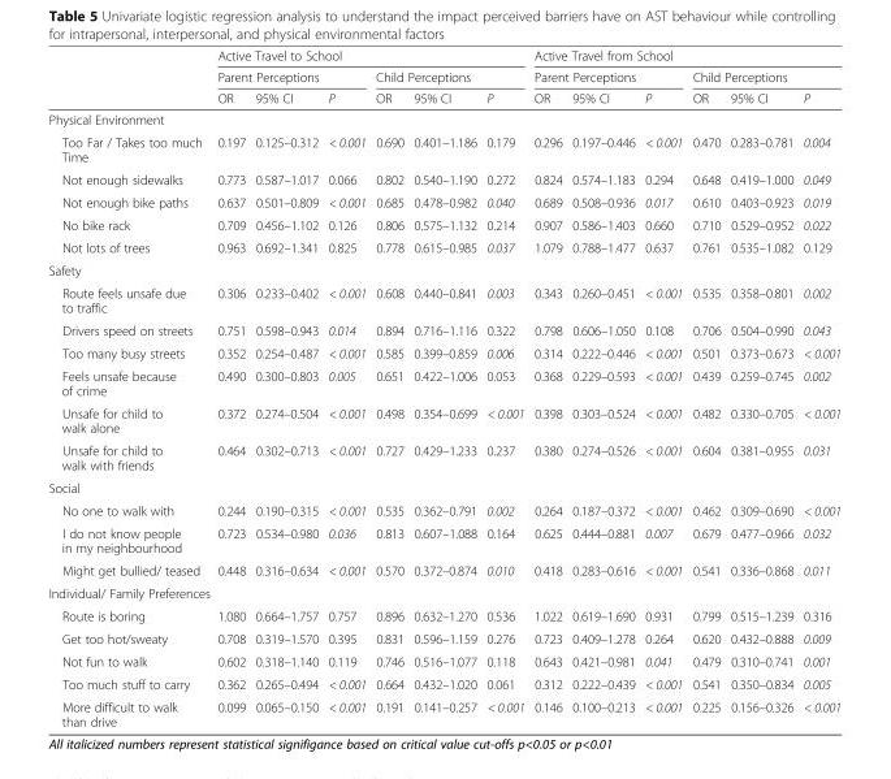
<table><thead><tr><td rowspan="3"></td><td colspan="6">Active Travel to School</td><td colspan="6">Active Travel from School</td></tr><tr><td colspan="3">Parent Perceptions</td><td colspan="3">Child Perceptions</td><td colspan="3">Parent Perceptions</td><td colspan="3">Child Perceptions</td></tr><tr><td>OR</td><td>95% CI</td><td>P</td><td>OR</td><td>95% CI</td><td>P</td><td>OR</td><td>95% CI</td><td>P</td><td>OR</td><td>95% CI</td><td>P</td></tr></thead><tbody><tr><td colspan="13">Physical Environment</td></tr><tr><td>Too Far / Takes too much Time</td><td>0.197</td><td>0.125–0.312</td><td>&lt; 0.001</td><td>0.690</td><td>0.401–1.186</td><td>0.179</td><td>0.296</td><td>0.197–0.446</td><td>&lt; 0.001</td><td>0.470</td><td>0.283–0.781</td><td>0.004</td></tr><tr><td>Not enough sidewalks</td><td>0.773</td><td>0.587–1.017</td><td>0.066</td><td>0.802</td><td>0.540–1.190</td><td>0.272</td><td>0.824</td><td>0.574–1.183</td><td>0.294</td><td>0.648</td><td>0.419–1.000</td><td>0.049</td></tr><tr><td>Not enough bike paths</td><td>0.637</td><td>0.501–0.809</td><td>&lt; 0.001</td><td>0.685</td><td>0.478–0.982</td><td>0.040</td><td>0.689</td><td>0.508–0.936</td><td>0.017</td><td>0.610</td><td>0.403–0.923</td><td>0.019</td></tr><tr><td>No bike rack</td><td>0.709</td><td>0.456–1.102</td><td>0.126</td><td>0.806</td><td>0.575–1.132</td><td>0.214</td><td>0.907</td><td>0.586–1.403</td><td>0.660</td><td>0.710</td><td>0.529–0.952</td><td>0.022</td></tr><tr><td>Not lots of trees</td><td>0.963</td><td>0.692–1.341</td><td>0.825</td><td>0.778</td><td>0.615–0.985</td><td>0.037</td><td>1.079</td><td>0.788–1.477</td><td>0.637</td><td>0.761</td><td>0.535–1.082</td><td>0.129</td></tr><tr><td colspan="13">Safety</td></tr><tr><td>Route feels unsafe due to traffic</td><td>0.306</td><td>0.233–0.402</td><td>&lt; 0.001</td><td>0.608</td><td>0.440–0.841</td><td>0.003</td><td>0.343</td><td>0.260–0.451</td><td>&lt; 0.001</td><td>0.535</td><td>0.358–0.801</td><td>0.002</td></tr><tr><td>Drivers speed on streets</td><td>0.751</td><td>0.598–0.943</td><td>0.014</td><td>0.894</td><td>0.716–1.116</td><td>0.322</td><td>0.798</td><td>0.606–1.050</td><td>0.108</td><td>0.706</td><td>0.504–0.990</td><td>0.043</td></tr><tr><td>Too many busy streets</td><td>0.352</td><td>0.254–0.487</td><td>&lt; 0.001</td><td>0.585</td><td>0.399–0.859</td><td>0.006</td><td>0.314</td><td>0.222–0.446</td><td>&lt; 0.001</td><td>0.501</td><td>0.373–0.673</td><td>&lt; 0.001</td></tr><tr><td>Feels unsafe because of crime</td><td>0.490</td><td>0.300–0.803</td><td>0.005</td><td>0.651</td><td>0.422–1.006</td><td>0.053</td><td>0.368</td><td>0.229–0.593</td><td>&lt; 0.001</td><td>0.439</td><td>0.259–0.745</td><td>0.002</td></tr><tr><td>Unsafe for child to walk alone</td><td>0.372</td><td>0.274–0.504</td><td>&lt; 0.001</td><td>0.498</td><td>0.354–0.699</td><td>&lt; 0.001</td><td>0.398</td><td>0.303–0.524</td><td>&lt; 0.001</td><td>0.482</td><td>0.330–0.705</td><td>&lt; 0.001</td></tr><tr><td>Unsafe for child to walk with friends</td><td>0.464</td><td>0.302–0.713</td><td>&lt; 0.001</td><td>0.727</td><td>0.429–1.233</td><td>0.237</td><td>0.380</td><td>0.274–0.526</td><td>&lt; 0.001</td><td>0.604</td><td>0.381–0.955</td><td>0.031</td></tr><tr><td colspan="13">Social</td></tr><tr><td>No one to walk with</td><td>0.244</td><td>0.190–0.315</td><td>&lt; 0.001</td><td>0.535</td><td>0.362–0.791</td><td>0.002</td><td>0.264</td><td>0.187–0.372</td><td>&lt; 0.001</td><td>0.462</td><td>0.309–0.690</td><td>&lt; 0.001</td></tr><tr><td>I do not know people in my neighbourhood</td><td>0.723</td><td>0.534–0.980</td><td>0.036</td><td>0.813</td><td>0.607–1.088</td><td>0.164</td><td>0.625</td><td>0.444–0.881</td><td>0.007</td><td>0.679</td><td>0.477–0.966</td><td>0.032</td></tr><tr><td>Might get bullied/ teased</td><td>0.448</td><td>0.316–0.634</td><td>&lt; 0.001</td><td>0.570</td><td>0.372–0.874</td><td>0.010</td><td>0.418</td><td>0.283–0.616</td><td>&lt; 0.001</td><td>0.541</td><td>0.336–0.868</td><td>0.011</td></tr><tr><td colspan="13">Individual/ Family Preferences</td></tr><tr><td>Route is boring</td><td>1.080</td><td>0.664–1.757</td><td>0.757</td><td>0.896</td><td>0.632–1.270</td><td>0.536</td><td>1.022</td><td>0.619–1.690</td><td>0.931</td><td>0.799</td><td>0.515–1.239</td><td>0.316</td></tr><tr><td>Get too hot/sweaty</td><td>0.708</td><td>0.319–1.570</td><td>0.395</td><td>0.831</td><td>0.596–1.159</td><td>0.276</td><td>0.723</td><td>0.409–1.278</td><td>0.264</td><td>0.620</td><td>0.432–0.888</td><td>0.009</td></tr><tr><td>Not fun to walk</td><td>0.602</td><td>0.318–1.140</td><td>0.119</td><td>0.746</td><td>0.516–1.077</td><td>0.118</td><td>0.643</td><td>0.421–0.981</td><td>0.041</td><td>0.479</td><td>0.310–0.741</td><td>0.001</td></tr><tr><td>Too much stuff to carry</td><td>0.362</td><td>0.265–0.494</td><td>&lt; 0.001</td><td>0.664</td><td>0.432–1.020</td><td>0.061</td><td>0.312</td><td>0.222–0.439</td><td>&lt; 0.001</td><td>0.541</td><td>0.350–0.834</td><td>0.005</td></tr><tr><td>More difficult to walk than drive</td><td>0.099</td><td>0.065–0.150</td><td>&lt; 0.001</td><td>0.191</td><td>0.141–0.257</td><td>&lt; 0.001</td><td>0.146</td><td>0.100–0.213</td><td>&lt; 0.001</td><td>0.225</td><td>0.156–0.326</td><td>&lt; 0.001</td></tr></tbody></table>